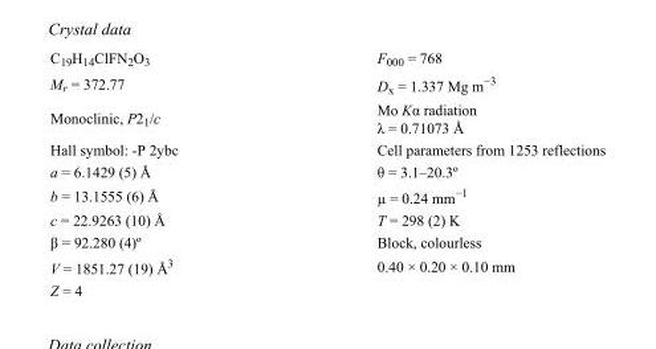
<table><tbody><tr><td>C<sub>19</sub>H<sub>14</sub>ClFN<sub>2</sub>O<sub>3</sub></td><td>F000 = 768</td></tr><tr><td>M<sub>r</sub> = 372.77</td><td>D<sub>x</sub> = 1.337 Mg m<sup>−3</sup></td></tr><tr><td>Monoclinic, P2<sub>1</sub>/c</td><td>Mo Kα radiation λ = 0.71073 Å</td></tr><tr><td>Hall symbol: -P 2ybc</td><td>Cell parameters from 1253 reflections</td></tr><tr><td>a = 6.1429 (5) Å</td><td>θ = 3.1–20.3º</td></tr><tr><td>b = 13.1555 (6) Å</td><td>µ = 0.24 mm<sup>−1</sup></td></tr><tr><td>c = 22.9263 (10) Å</td><td>T = 298 (2) K</td></tr><tr><td>β = 92.280 (4)º</td><td>Block, colourless</td></tr><tr><td>V = 1851.27 (19) Å<sup>3</sup></td><td>0.40 × 0.20 × 0.10 mm</td></tr><tr><td>Z = 4</td><td></td></tr></tbody></table>